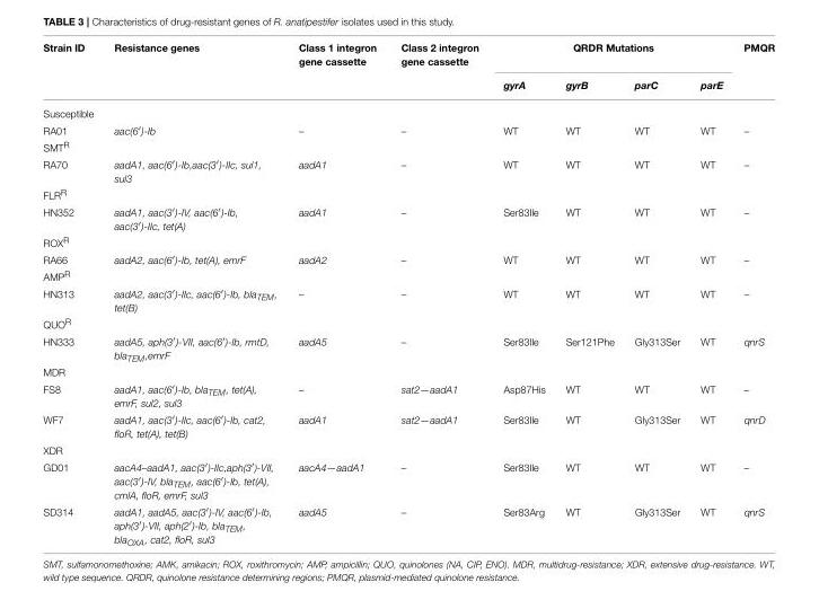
<table><thead><tr><td rowspan="2">Strain ID</td><td rowspan="2">Resistance genes</td><td rowspan="2">Class 1 integron gene cassette</td><td rowspan="2">Class 2 integron gene cassette</td><td colspan="4">QRDR Mutations</td><td rowspan="2">PMQR</td></tr><tr><td>gyrA</td><td>gyrB</td><td>parC</td><td>parE</td></tr></thead><tbody><tr><td colspan="9">Susceptible</td></tr><tr><td>RA01</td><td>aac(6′)-Ib</td><td>–</td><td>–</td><td>WT</td><td>WT</td><td>WT</td><td>WT</td><td>–</td></tr><tr><td colspan="9">SMT<sup>R</sup></td></tr><tr><td>RA70</td><td>aadA1, aac(6′)-Ib,aac(3′)-IIc, sul1, sul3</td><td>aadA1</td><td>–</td><td>WT</td><td>WT</td><td>WT</td><td>WT</td><td>–</td></tr><tr><td colspan="9">FLR<sup>R</sup></td></tr><tr><td>HN352</td><td>aadA1, aac(3′)-IV, aac(6′)-Ib, aac(3′)-IIc, tet(A)</td><td>aadA1</td><td>–</td><td>Ser83Ile</td><td>WT</td><td>WT</td><td>WT</td><td>–</td></tr><tr><td colspan="9">ROX<sup>R</sup></td></tr><tr><td>RA66</td><td>aadA2, aac(6′)-Ib, tet(A), emrF</td><td>aadA2</td><td>–</td><td>WT</td><td>WT</td><td>WT</td><td>WT</td><td>–</td></tr><tr><td colspan="9">AMP<sup>R</sup></td></tr><tr><td>HN313</td><td>aadA2, aac(3′)-IIc, aac(6′)-Ib, blaTEM, tet(B)</td><td>–</td><td>–</td><td>WT</td><td>WT</td><td>WT</td><td>WT</td><td>–</td></tr><tr><td colspan="9">QUO<sup>R</sup></td></tr><tr><td>HN333</td><td>aadA5, aph(3′)-VII, aac(6′)-Ib, rmtD, blaTEM,emrF</td><td>aadA5</td><td>–</td><td>Ser83Ile</td><td>Ser121Phe</td><td>Gly313Ser</td><td>WT</td><td>qnrS</td></tr><tr><td colspan="9">MDR</td></tr><tr><td>FS8</td><td>aadA1, aac(6′)-Ib, blaTEM, tet(A), emrF, sul2, sul3</td><td>–</td><td>sat2—aadA1</td><td>Asp87His</td><td>WT</td><td>WT</td><td>WT</td><td>–</td></tr><tr><td>WF7</td><td>aadA1, aac(3′)-IIc, aac(6′)-Ib, cat2, floR, tet(A), tet(B)</td><td>aadA1</td><td>sat2—aadA1</td><td>Ser83Ile</td><td>WT</td><td>Gly313Ser</td><td>WT</td><td>qnrD</td></tr><tr><td colspan="9">XDR</td></tr><tr><td>GD01</td><td>aacA4–aadA1, aac(3′)-IIc,aph(3′)-VII, aac(3′)-IV, blaTEM, aac(6′)-Ib, tet(A), cmlA, floR, emrF, sul3</td><td>aacA4—aadA1</td><td>–</td><td>Ser83Ile</td><td>WT</td><td>WT</td><td>WT</td><td>–</td></tr><tr><td>SD314</td><td>aadA1, aadA5, aac(3′)-IV, aac(6′)-Ib, aph(3′)-VII, aph(2′)-Ib, blaTEM, blaOXA, cat2, floR, sul3</td><td>aadA5</td><td>–</td><td>Ser83Arg</td><td>WT</td><td>Gly313Ser</td><td>WT</td><td>qnrS</td></tr></tbody></table>